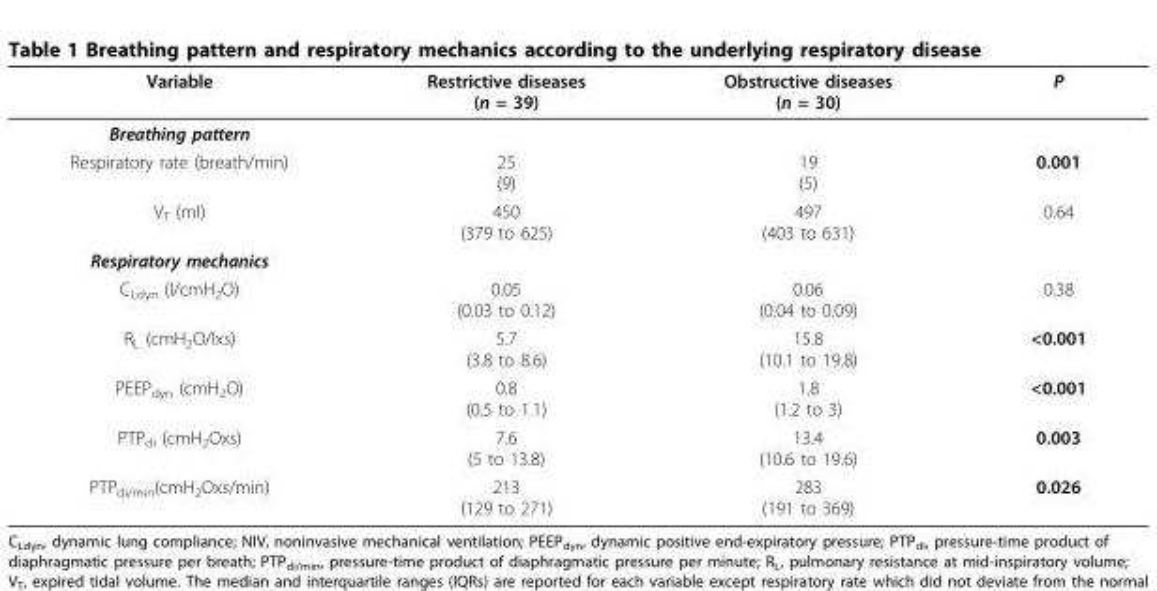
<table><thead><tr><td>Variable</td><td>Restrictive diseases (n = 39)</td><td>Obstructive diseases (n = 30)</td><td>P</td></tr></thead><tbody><tr><td colspan="4">Breathing pattern</td></tr><tr><td>Respiratory rate (breath/min)</td><td>25 (9)</td><td>19 (5)</td><td>0.001</td></tr><tr><td>V<sub>T</sub> (ml)</td><td>450 (379 to 625)</td><td>497 (403 to 631)</td><td>0.64</td></tr><tr><td colspan="4">Respiratory mechanics</td></tr><tr><td>C<sub>Ldyn</sub> (l/cmH<sub>2</sub>O)</td><td>0.05 (0.03 to 0.12)</td><td>0.06 (0.04 to 0.09)</td><td>0.38</td></tr><tr><td>R<sub>L</sub> (cmH<sub>2</sub>O/lxs)</td><td>5.7 (3.8 to 8.6)</td><td>15.8 (10.1 to 19.8)</td><td>&lt;0.001</td></tr><tr><td>PEEP<sub>dyn</sub> (cmH<sub>2</sub>O)</td><td>0.8 (0.5 to 1.1)</td><td>1.8 (1.2 to 3)</td><td>&lt;0.001</td></tr><tr><td>PTP<sub>di</sub> (cmH<sub>2</sub>Oxs)</td><td>7.6 (5 to 13.8)</td><td>13.4 (10.6 to 19.6)</td><td>0.003</td></tr><tr><td>PTP<sub>di/min</sub>(cmH<sub>2</sub>Oxs/min)</td><td>213 (129 to 271)</td><td>283 (191 to 369)</td><td>0.026</td></tr></tbody></table>